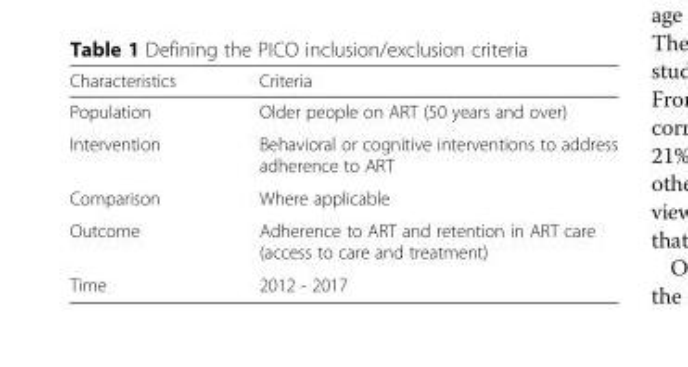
<table><thead><tr><td>Characteristics</td><td>Criteria</td></tr></thead><tbody><tr><td>Population</td><td>Older people on ART (50 years and over)</td></tr><tr><td>Intervention</td><td>Behavioral or cognitive interventions to address adherence to ART</td></tr><tr><td>Comparison</td><td>Where applicable</td></tr><tr><td>Outcome</td><td>Adherence to ART and retention in ART care (access to care and treatment)</td></tr><tr><td>Time</td><td>2012 - 2017</td></tr></tbody></table>